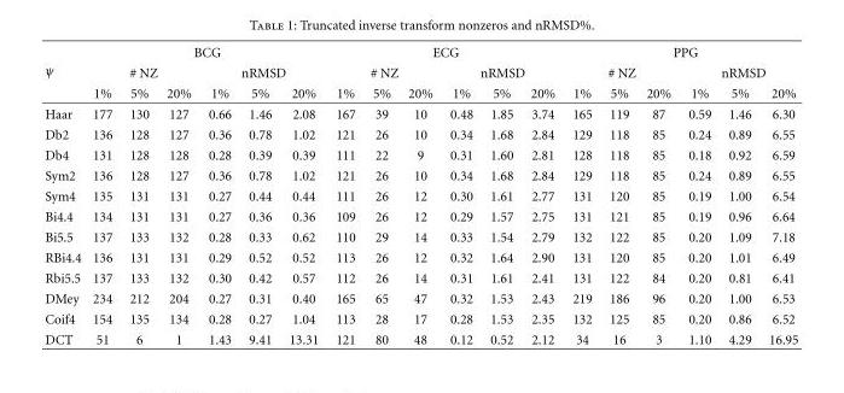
<table><thead><tr><td rowspan="3">ψ</td><td colspan="6">BCG</td><td colspan="6">ECG</td><td colspan="6">PPG</td></tr><tr><td colspan="3"># NZ</td><td colspan="3">nRMSD</td><td colspan="3"># NZ</td><td colspan="3">nRMSD</td><td colspan="3"># NZ</td><td colspan="3">nRMSD</td></tr><tr><td>1%</td><td>5%</td><td>20%</td><td>1%</td><td>5%</td><td>20%</td><td>1%</td><td>5%</td><td>20%</td><td>1%</td><td>5%</td><td>20%</td><td>1%</td><td>5%</td><td>20%</td><td>1%</td><td>5%</td><td>20%</td></tr></thead><tbody><tr><td>Haar</td><td>177</td><td>130</td><td>127</td><td>0.66</td><td>1.46</td><td>2.08</td><td>167</td><td>39</td><td>10</td><td>0.48</td><td>1.85</td><td>3.74</td><td>165</td><td>119</td><td>87</td><td>0.59</td><td>1.46</td><td>6.30</td></tr><tr><td>Db2</td><td>136</td><td>128</td><td>127</td><td>0.36</td><td>0.78</td><td>1.02</td><td>121</td><td>26</td><td>10</td><td>0.34</td><td>1.68</td><td>2.84</td><td>129</td><td>118</td><td>85</td><td>0.24</td><td>0.89</td><td>6.55</td></tr><tr><td>Db4</td><td>131</td><td>128</td><td>128</td><td>0.28</td><td>0.39</td><td>0.39</td><td>111</td><td>22</td><td>9</td><td>0.31</td><td>1.60</td><td>2.81</td><td>128</td><td>118</td><td>85</td><td>0.18</td><td>0.92</td><td>6.59</td></tr><tr><td>Sym2</td><td>136</td><td>128</td><td>127</td><td>0.36</td><td>0.78</td><td>1.02</td><td>121</td><td>26</td><td>10</td><td>0.34</td><td>1.68</td><td>2.84</td><td>129</td><td>118</td><td>85</td><td>0.24</td><td>0.89</td><td>6.55</td></tr><tr><td>Sym4</td><td>135</td><td>131</td><td>131</td><td>0.27</td><td>0.44</td><td>0.44</td><td>111</td><td>26</td><td>12</td><td>0.30</td><td>1.61</td><td>2.77</td><td>131</td><td>120</td><td>85</td><td>0.19</td><td>1.00</td><td>6.54</td></tr><tr><td>Bi4.4</td><td>134</td><td>131</td><td>131</td><td>0.27</td><td>0.36</td><td>0.36</td><td>109</td><td>26</td><td>12</td><td>0.29</td><td>1.57</td><td>2.75</td><td>131</td><td>121</td><td>85</td><td>0.19</td><td>0.96</td><td>6.64</td></tr><tr><td>Bi5.5</td><td>137</td><td>133</td><td>132</td><td>0.28</td><td>0.33</td><td>0.62</td><td>110</td><td>29</td><td>14</td><td>0.33</td><td>1.54</td><td>2.79</td><td>132</td><td>122</td><td>85</td><td>0.20</td><td>1.09</td><td>7.18</td></tr><tr><td>RBi4.4</td><td>136</td><td>131</td><td>131</td><td>0.29</td><td>0.52</td><td>0.52</td><td>113</td><td>26</td><td>12</td><td>0.32</td><td>1.64</td><td>2.90</td><td>131</td><td>120</td><td>85</td><td>0.20</td><td>1.01</td><td>6.49</td></tr><tr><td>Rbi5.5</td><td>137</td><td>133</td><td>132</td><td>0.30</td><td>0.42</td><td>0.57</td><td>112</td><td>26</td><td>14</td><td>0.31</td><td>1.61</td><td>2.41</td><td>131</td><td>122</td><td>84</td><td>0.20</td><td>0.81</td><td>6.41</td></tr><tr><td>DMey</td><td>234</td><td>212</td><td>204</td><td>0.27</td><td>0.31</td><td>0.40</td><td>165</td><td>65</td><td>47</td><td>0.32</td><td>1.53</td><td>2.43</td><td>219</td><td>186</td><td>96</td><td>0.20</td><td>1.00</td><td>6.53</td></tr><tr><td>Coif4</td><td>154</td><td>135</td><td>134</td><td>0.28</td><td>0.27</td><td>1.04</td><td>113</td><td>28</td><td>17</td><td>0.28</td><td>1.53</td><td>2.35</td><td>132</td><td>125</td><td>85</td><td>0.20</td><td>0.86</td><td>6.52</td></tr><tr><td>DCT</td><td>51</td><td>6</td><td>1</td><td>1.43</td><td>9.41</td><td>13.31</td><td>121</td><td>80</td><td>48</td><td>0.12</td><td>0.52</td><td>2.12</td><td>34</td><td>16</td><td>3</td><td>1.10</td><td>4.29</td><td>16.95</td></tr></tbody></table>